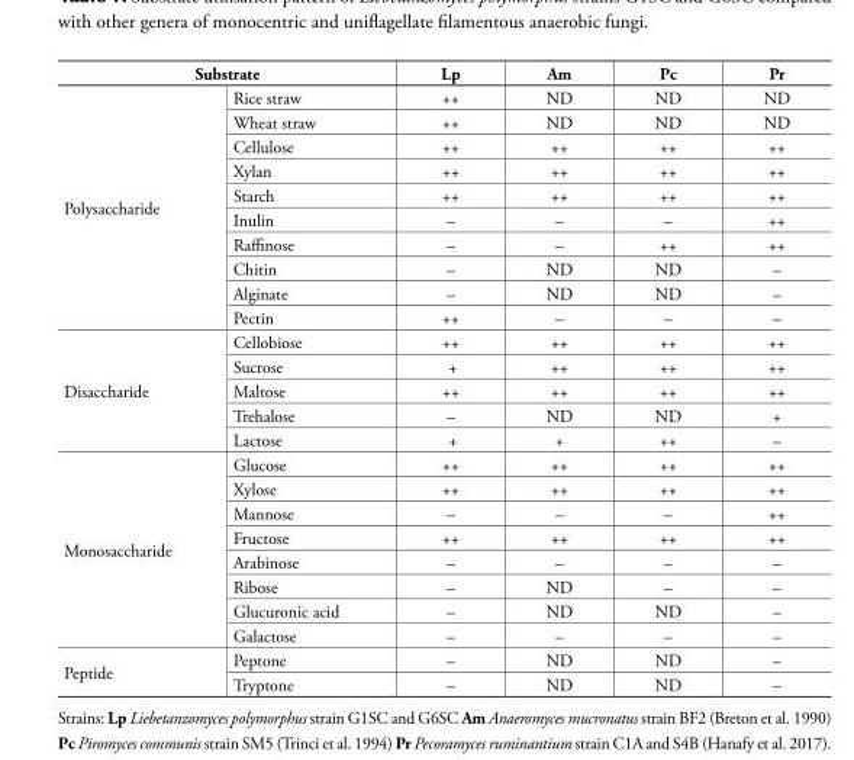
<table><tbody><tr><td colspan="2">Substrate</td><td>Lp</td><td>Am</td><td>Pc</td><td>Pr</td></tr><tr><td rowspan="10">Polysaccharide</td><td>Rice straw</td><td>++</td><td>ND</td><td>ND</td><td>ND</td></tr><tr><td>Wheat straw</td><td>++</td><td>ND</td><td>ND</td><td>ND</td></tr><tr><td>Cellulose</td><td>++</td><td>++</td><td>++</td><td>++</td></tr><tr><td>Xylan</td><td>++</td><td>++</td><td>++</td><td>++</td></tr><tr><td>Starch</td><td>++</td><td>++</td><td>++</td><td>++</td></tr><tr><td>Inulin</td><td>–</td><td>–</td><td>–</td><td>++</td></tr><tr><td>Raffinose</td><td>–</td><td>–</td><td>++</td><td>++</td></tr><tr><td>Chitin</td><td>–</td><td>ND</td><td>ND</td><td>–</td></tr><tr><td>Alginate</td><td>–</td><td>ND</td><td>ND</td><td>–</td></tr><tr><td>Pectin</td><td>++</td><td>–</td><td>–</td><td>–</td></tr><tr><td rowspan="5">Disaccharide</td><td>Cellobiose</td><td>++</td><td>++</td><td>++</td><td>++</td></tr><tr><td>Sucrose</td><td>+</td><td>++</td><td>++</td><td>++</td></tr><tr><td>Maltose</td><td>++</td><td>++</td><td>++</td><td>++</td></tr><tr><td>Trehalose</td><td>–</td><td>ND</td><td>ND</td><td>+</td></tr><tr><td>Lactose</td><td>+</td><td>+</td><td>++</td><td>–</td></tr><tr><td rowspan="8">Monosaccharide</td><td>Glucose</td><td>++</td><td>++</td><td>++</td><td>++</td></tr><tr><td>Xylose</td><td>++</td><td>++</td><td>++</td><td>++</td></tr><tr><td>Mannose</td><td>–</td><td>–</td><td>–</td><td>++</td></tr><tr><td>Fructose</td><td>++</td><td>++</td><td>++</td><td>++</td></tr><tr><td>Arabinose</td><td>–</td><td>–</td><td>–</td><td>–</td></tr><tr><td>Ribose</td><td>–</td><td>ND</td><td>–</td><td>–</td></tr><tr><td>Glucuronic acid</td><td>–</td><td>ND</td><td>ND</td><td>–</td></tr><tr><td>Galactose</td><td>–</td><td>–</td><td>–</td><td>–</td></tr><tr><td rowspan="2">Peptide</td><td>Peptone</td><td>–</td><td>ND</td><td>ND</td><td>–</td></tr><tr><td>Tryptone</td><td>–</td><td>ND</td><td>ND</td><td>–</td></tr></tbody></table>